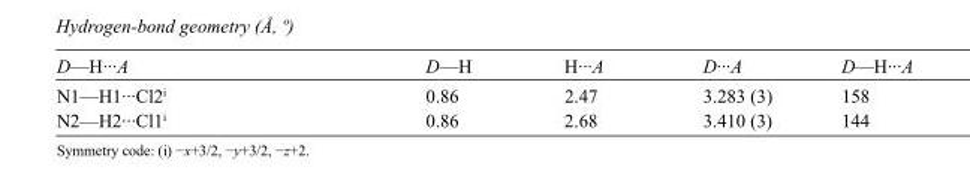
<table><tbody><tr><td>D—H···A</td><td>D—H</td><td>H···A</td><td>D···A</td><td>D—H···A</td></tr><tr><td>N1—H1···Cl2<sup>i</sup></td><td>0.86</td><td>2.47</td><td>3.283 (3)</td><td>158</td></tr><tr><td>N2—H2···Cl1<sup>i</sup></td><td>0.86</td><td>2.68</td><td>3.410 (3)</td><td>144</td></tr></tbody></table>